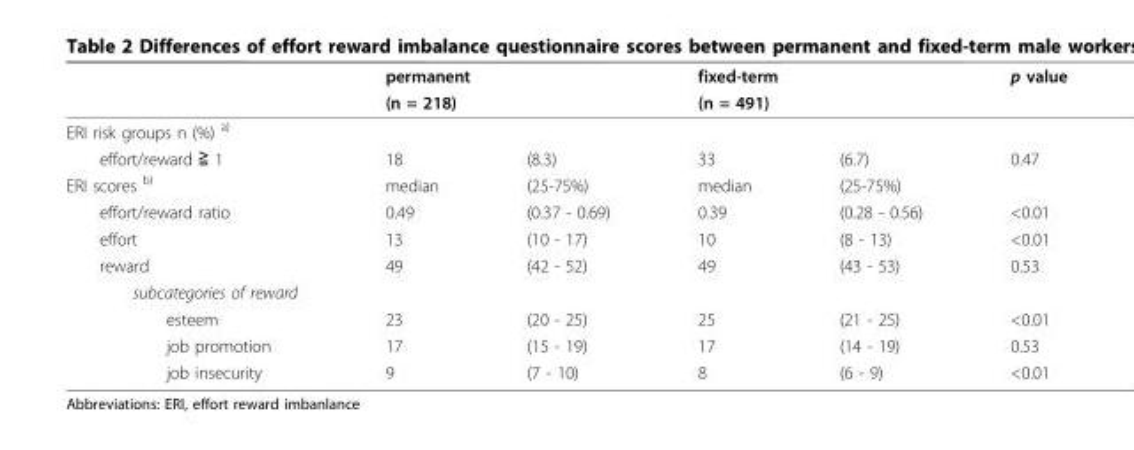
<table><thead><tr><td rowspan="3">ERI risk groups n (%) <sup>a)</sup></td><td rowspan="2" colspan="2">permanent (n = 218)</td><td rowspan="2" colspan="2">fixed-term (n = 491)</td><td rowspan="3">p value</td></tr><tr></tr><tr><td></td><td></td><td></td><td></td></tr></thead><tbody><tr><td>effort/reward ≧ 1</td><td>18</td><td>(8.3)</td><td>33</td><td>(6.7)</td><td>0.47</td></tr><tr><td>ERI scores <sup>b)</sup></td><td>median</td><td>(25-75%)</td><td>median</td><td>(25-75%)</td><td></td></tr><tr><td>effort/reward ratio</td><td>0.49</td><td>(0.37 - 0.69)</td><td>0.39</td><td>(0.28 - 0.56)</td><td>&lt;0.01</td></tr><tr><td>effort</td><td>13</td><td>(10 - 17)</td><td>10</td><td>(8 - 13)</td><td>&lt;0.01</td></tr><tr><td>reward</td><td>49</td><td>(42 - 52)</td><td>49</td><td>(43 - 53)</td><td>0.53</td></tr><tr><td colspan="6">subcategories of reward</td></tr><tr><td>esteem</td><td>23</td><td>(20 - 25)</td><td>25</td><td>(21 - 25)</td><td>&lt;0.01</td></tr><tr><td>job promotion</td><td>17</td><td>(15 - 19)</td><td>17</td><td>(14 - 19)</td><td>0.53</td></tr><tr><td>job insecurity</td><td>9</td><td>(7 - 10)</td><td>8</td><td>(6 - 9)</td><td>&lt;0.01</td></tr></tbody></table>